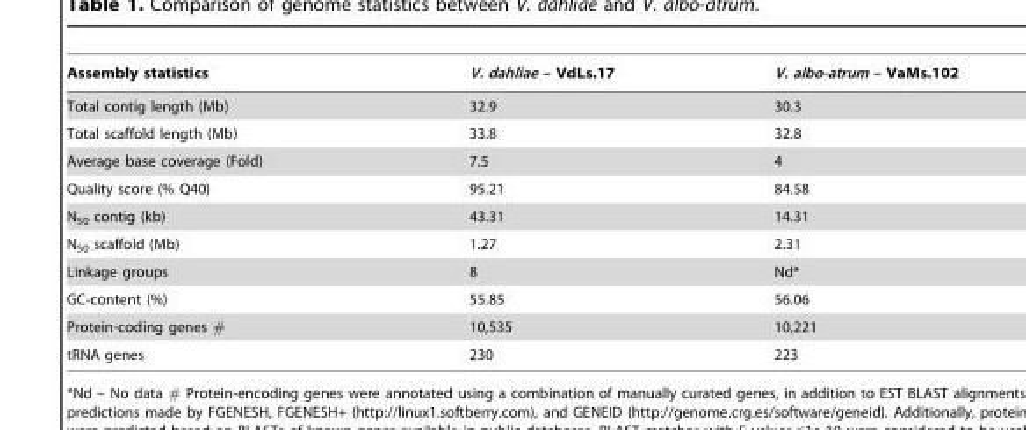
<table><thead><tr><td>Assembly statistics</td><td>V. dahliae – VdLs.17</td><td>V. albo-atrum – VaMs.102</td></tr></thead><tbody><tr><td>Total contig length (Mb)</td><td>32.9</td><td>30.3</td></tr><tr><td>Total scaffold length (Mb)</td><td>33.8</td><td>32.8</td></tr><tr><td>Average base coverage (Fold)</td><td>7.5</td><td>4</td></tr><tr><td>Quality score (% Q40)</td><td>95.21</td><td>84.58</td></tr><tr><td>N<sub>50</sub> contig (kb)</td><td>43.31</td><td>14.31</td></tr><tr><td>N<sub>50</sub> scaffold (Mb)</td><td>1.27</td><td>2.31</td></tr><tr><td>Linkage groups</td><td>8</td><td>Nd*</td></tr><tr><td>GC-content (%)</td><td>55.85</td><td>56.06</td></tr><tr><td>Protein-coding genes #</td><td>10,535</td><td>10,221</td></tr><tr><td>tRNA genes</td><td>230</td><td>223</td></tr></tbody></table>